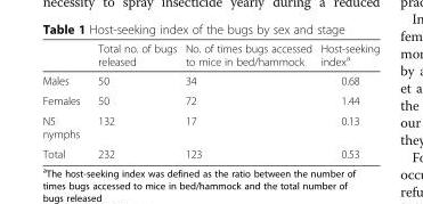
<table><thead><tr><td></td><td>Total no. of bugs released</td><td>No. of times bugs accessed to mice in bed/hammock</td><td>Host-seeking index<sup>a</sup></td></tr></thead><tbody><tr><td>Males</td><td>50</td><td>34</td><td>0.68</td></tr><tr><td>Females</td><td>50</td><td>72</td><td>1.44</td></tr><tr><td>N5 nymphs</td><td>132</td><td>17</td><td>0.13</td></tr><tr><td>Total</td><td>232</td><td>123</td><td>0.53</td></tr></tbody></table>